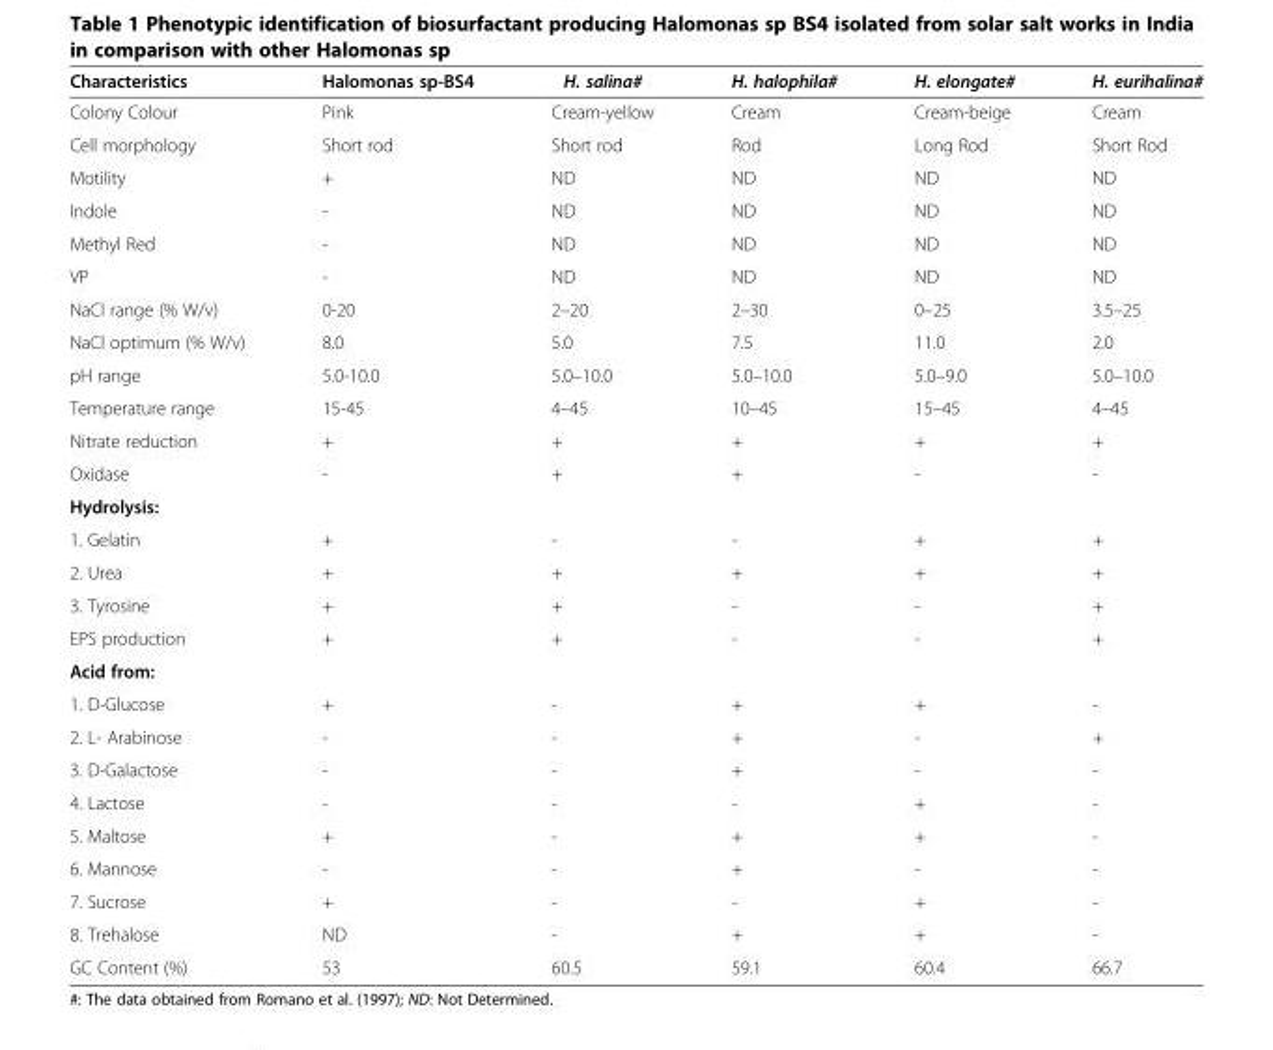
<table><thead><tr><td>Characteristics</td><td>Halomonas sp-BS4</td><td>H. salina#</td><td>H. halophila#</td><td>H. elongate#</td><td>H. eurihalina#</td></tr></thead><tbody><tr><td>Colony Colour</td><td>Pink</td><td>Cream-yellow</td><td>Cream</td><td>Cream-beige</td><td>Cream</td></tr><tr><td>Cell morphology</td><td>Short rod</td><td>Short rod</td><td>Rod</td><td>Long Rod</td><td>Short Rod</td></tr><tr><td>Motility</td><td>+</td><td>ND</td><td>ND</td><td>ND</td><td>ND</td></tr><tr><td>Indole</td><td>-</td><td>ND</td><td>ND</td><td>ND</td><td>ND</td></tr><tr><td>Methyl Red</td><td>-</td><td>ND</td><td>ND</td><td>ND</td><td>ND</td></tr><tr><td>VP</td><td>-</td><td>ND</td><td>ND</td><td>ND</td><td>ND</td></tr><tr><td>NaCl range (% W/v)</td><td>0-20</td><td>2–20</td><td>2–30</td><td>0–25</td><td>3.5–25</td></tr><tr><td>NaCl optimum (% W/v)</td><td>8.0</td><td>5.0</td><td>7.5</td><td>11.0</td><td>2.0</td></tr><tr><td>pH range</td><td>5.0-10.0</td><td>5.0–10.0</td><td>5.0–10.0</td><td>5.0–9.0</td><td>5.0–10.0</td></tr><tr><td>Temperature range</td><td>15-45</td><td>4–45</td><td>10–45</td><td>15–45</td><td>4–45</td></tr><tr><td>Nitrate reduction</td><td>+</td><td>+</td><td>+</td><td>+</td><td>+</td></tr><tr><td>Oxidase</td><td>-</td><td>+</td><td>+</td><td>-</td><td>-</td></tr><tr><td colspan="6">Hydrolysis:</td></tr><tr><td>1. Gelatin</td><td>+</td><td>-</td><td>-</td><td>+</td><td>+</td></tr><tr><td>2. Urea</td><td>+</td><td>+</td><td>+</td><td>+</td><td>+</td></tr><tr><td>3. Tyrosine</td><td>+</td><td>+</td><td>-</td><td>-</td><td>+</td></tr><tr><td>EPS production</td><td>+</td><td>+</td><td>-</td><td>-</td><td>+</td></tr><tr><td colspan="6">Acid from:</td></tr><tr><td>1. D-Glucose</td><td>+</td><td>-</td><td>+</td><td>+</td><td>-</td></tr><tr><td>2. L- Arabinose</td><td>-</td><td>-</td><td>+</td><td>-</td><td>+</td></tr><tr><td>3. D-Galactose</td><td>-</td><td>-</td><td>+</td><td>-</td><td>-</td></tr><tr><td>4. Lactose</td><td>-</td><td>-</td><td>-</td><td>+</td><td>-</td></tr><tr><td>5. Maltose</td><td>+</td><td>-</td><td>+</td><td>+</td><td>-</td></tr><tr><td>6. Mannose</td><td>-</td><td>-</td><td>+</td><td>-</td><td>-</td></tr><tr><td>7. Sucrose</td><td>+</td><td>-</td><td>-</td><td>+</td><td>-</td></tr><tr><td>8. Trehalose</td><td>ND</td><td>-</td><td>+</td><td>+</td><td>-</td></tr><tr><td>GC Content (%)</td><td>53</td><td>60.5</td><td>59.1</td><td>60.4</td><td>66.7</td></tr></tbody></table>